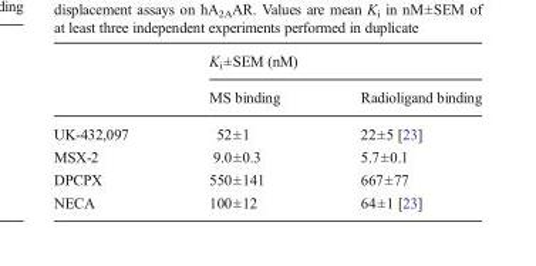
<table><thead><tr><td rowspan="2"></td><td colspan="2">K<sub>i</sub>±SEM (nM)</td></tr><tr><td>MS binding</td><td>Radioligand binding</td></tr></thead><tbody><tr><td>UK-432,097</td><td>52±1</td><td>22±5 [23]</td></tr><tr><td>MSX-2</td><td>9.0±0.3</td><td>5.7±0.1</td></tr><tr><td>DPCPX</td><td>550±141</td><td>667±77</td></tr><tr><td>NECA</td><td>100±12</td><td>64±1 [23]</td></tr></tbody></table>